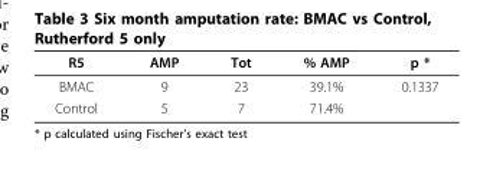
<table><thead><tr><td>R5</td><td>AMP</td><td>Tot</td><td>% AMP</td><td>p *</td></tr></thead><tbody><tr><td>BMAC</td><td>9</td><td>23</td><td>39.1%</td><td>0.1337</td></tr><tr><td>Control</td><td>5</td><td>7</td><td>71.4%</td><td></td></tr></tbody></table>